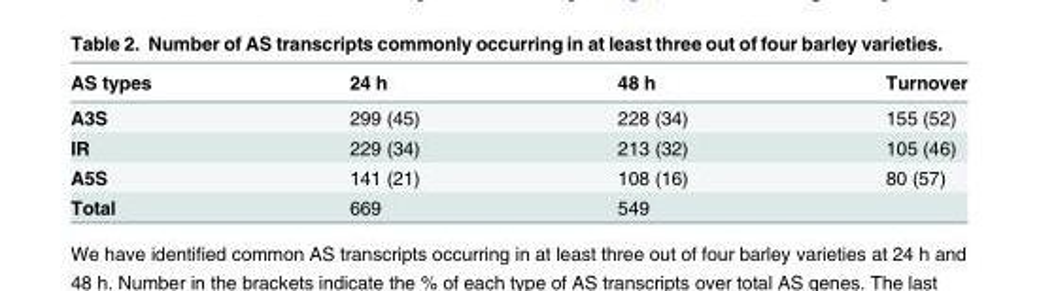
<table><thead><tr><td>AS types</td><td>24 h</td><td>48 h</td><td>Turnover</td></tr></thead><tbody><tr><td>A3S</td><td>299 (45)</td><td>228 (34)</td><td>155 (52)</td></tr><tr><td>IR</td><td>229 (34)</td><td>213 (32)</td><td>105 (46)</td></tr><tr><td>A5S</td><td>141 (21)</td><td>108 (16)</td><td>80 (57)</td></tr><tr><td>Total</td><td>669</td><td>549</td><td></td></tr></tbody></table>